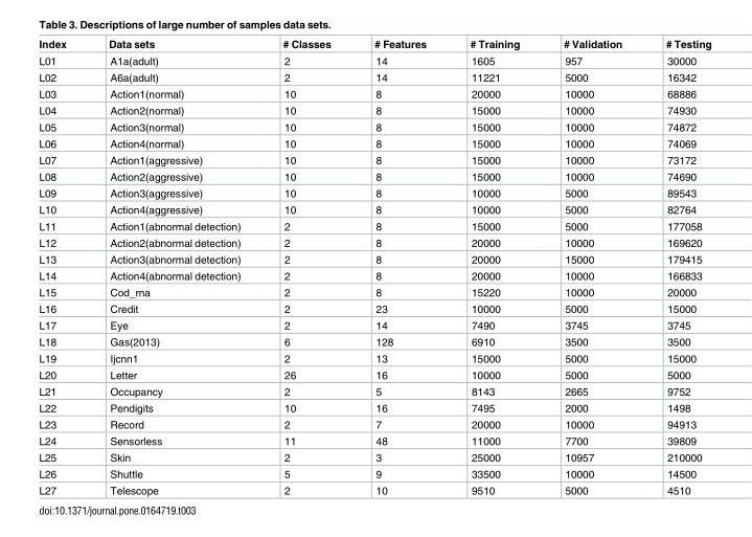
<table><thead><tr><td>Index</td><td>Data sets</td><td># Classes</td><td># Features</td><td># Training</td><td># Validation</td><td># Testing</td></tr></thead><tbody><tr><td>L01</td><td>A1a(adult)</td><td>2</td><td>14</td><td>1605</td><td>957</td><td>30000</td></tr><tr><td>L02</td><td>A6a(adult)</td><td>2</td><td>14</td><td>11221</td><td>5000</td><td>16342</td></tr><tr><td>L03</td><td>Action1(normal)</td><td>10</td><td>8</td><td>20000</td><td>10000</td><td>68886</td></tr><tr><td>L04</td><td>Action2(normal)</td><td>10</td><td>8</td><td>15000</td><td>10000</td><td>74930</td></tr><tr><td>L05</td><td>Action3(normal)</td><td>10</td><td>8</td><td>15000</td><td>10000</td><td>74872</td></tr><tr><td>L06</td><td>Action4(normal)</td><td>10</td><td>8</td><td>15000</td><td>10000</td><td>74069</td></tr><tr><td>L07</td><td>Action1(aggressive)</td><td>10</td><td>8</td><td>15000</td><td>10000</td><td>73172</td></tr><tr><td>L08</td><td>Action2(aggressive)</td><td>10</td><td>8</td><td>15000</td><td>10000</td><td>74690</td></tr><tr><td>L09</td><td>Action3(aggressive)</td><td>10</td><td>8</td><td>10000</td><td>5000</td><td>89543</td></tr><tr><td>L10</td><td>Action4(aggressive)</td><td>10</td><td>8</td><td>10000</td><td>5000</td><td>82764</td></tr><tr><td>L11</td><td>Action1(abnormal detection)</td><td>2</td><td>8</td><td>15000</td><td>5000</td><td>177058</td></tr><tr><td>L12</td><td>Action2(abnormal detection)</td><td>2</td><td>8</td><td>20000</td><td>10000</td><td>169620</td></tr><tr><td>L13</td><td>Action3(abnormal detection)</td><td>2</td><td>8</td><td>20000</td><td>15000</td><td>179415</td></tr><tr><td>L14</td><td>Action4(abnormal detection)</td><td>2</td><td>8</td><td>20000</td><td>10000</td><td>166833</td></tr><tr><td>L15</td><td>Cod_rna</td><td>2</td><td>8</td><td>15220</td><td>10000</td><td>20000</td></tr><tr><td>L16</td><td>Credit</td><td>2</td><td>23</td><td>10000</td><td>5000</td><td>15000</td></tr><tr><td>L17</td><td>Eye</td><td>2</td><td>14</td><td>7490</td><td>3745</td><td>3745</td></tr><tr><td>L18</td><td>Gas(2013)</td><td>6</td><td>128</td><td>6910</td><td>3500</td><td>3500</td></tr><tr><td>L19</td><td>Ijcnn1</td><td>2</td><td>13</td><td>15000</td><td>5000</td><td>15000</td></tr><tr><td>L20</td><td>Letter</td><td>26</td><td>16</td><td>10000</td><td>5000</td><td>5000</td></tr><tr><td>L21</td><td>Occupancy</td><td>2</td><td>5</td><td>8143</td><td>2665</td><td>9752</td></tr><tr><td>L22</td><td>Pendigits</td><td>10</td><td>16</td><td>7495</td><td>2000</td><td>1498</td></tr><tr><td>L23</td><td>Record</td><td>2</td><td>7</td><td>20000</td><td>10000</td><td>94913</td></tr><tr><td>L24</td><td>Sensorless</td><td>11</td><td>48</td><td>11000</td><td>7700</td><td>39809</td></tr><tr><td>L25</td><td>Skin</td><td>2</td><td>3</td><td>25000</td><td>10957</td><td>210000</td></tr><tr><td>L26</td><td>Shuttle</td><td>5</td><td>9</td><td>33500</td><td>10000</td><td>14500</td></tr><tr><td>L27</td><td>Telescope</td><td>2</td><td>10</td><td>9510</td><td>5000</td><td>4510</td></tr></tbody></table>